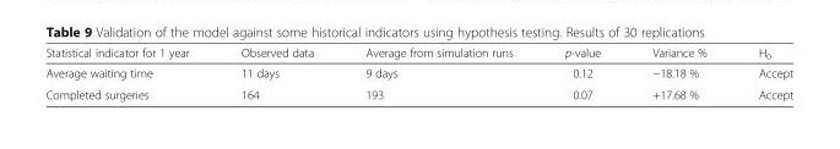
<table><thead><tr><td>Statistical indicator for 1 year</td><td>Observed data</td><td>Average from simulation runs</td><td>p-value</td><td>Variance %</td><td>H<sub>0</sub></td></tr></thead><tbody><tr><td>Average waiting time</td><td>11 days</td><td>9 days</td><td>0.12</td><td>−18.18 %</td><td>Accept</td></tr><tr><td>Completed surgeries</td><td>164</td><td>193</td><td>0.07</td><td>+17.68 %</td><td>Accept</td></tr></tbody></table>